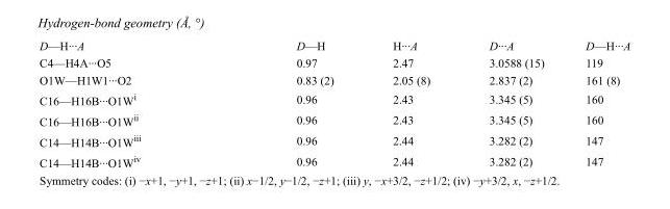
<table><tbody><tr><td>D—H···A</td><td>D—H</td><td>H···A</td><td>D···A</td><td>D—H···A</td></tr><tr><td>C4—H4A···O5</td><td>0.97</td><td>2.47</td><td>3.0588 (15)</td><td>119</td></tr><tr><td>O1W—H1W1···O2</td><td>0.83 (2)</td><td>2.05 (8)</td><td>2.837 (2)</td><td>161 (8)</td></tr><tr><td>C16—H16B···O1W<sup>i</sup></td><td>0.96</td><td>2.43</td><td>3.345 (5)</td><td>160</td></tr><tr><td>C16—H16B···O1W<sup>ii</sup></td><td>0.96</td><td>2.43</td><td>3.345 (5)</td><td>160</td></tr><tr><td>C14—H14B···O1W<sup>iii</sup></td><td>0.96</td><td>2.44</td><td>3.282 (2)</td><td>147</td></tr><tr><td>C14—H14B···O1W<sup>iv</sup></td><td>0.96</td><td>2.44</td><td>3.282 (2)</td><td>147</td></tr></tbody></table>